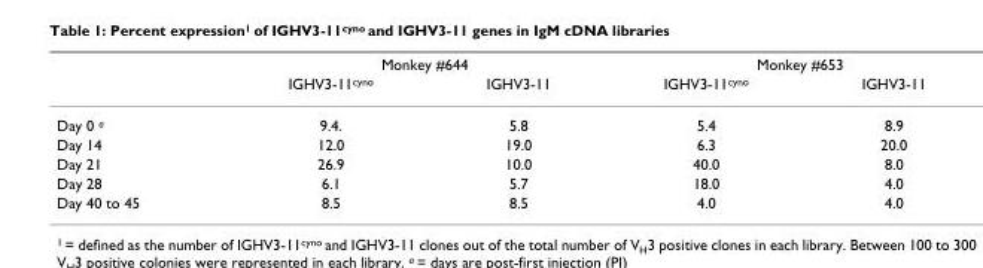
<table><thead><tr><td rowspan="2"></td><td colspan="2">Monkey #644</td><td colspan="2">Monkey #653</td></tr><tr><td>IGHV3-11<sup>cyno</sup></td><td>IGHV3-11</td><td>IGHV3-11<sup>cyno</sup></td><td>IGHV3-11</td></tr></thead><tbody><tr><td>Day 0 <sup>a</sup></td><td>9.4.</td><td>5.8</td><td>5.4</td><td>8.9</td></tr><tr><td>Day 14</td><td>12.0</td><td>19.0</td><td>6.3</td><td>20.0</td></tr><tr><td>Day 21</td><td>26.9</td><td>10.0</td><td>40.0</td><td>8.0</td></tr><tr><td>Day 28</td><td>6.1</td><td>5.7</td><td>18.0</td><td>4.0</td></tr><tr><td>Day 40 to 45</td><td>8.5</td><td>8.5</td><td>4.0</td><td>4.0</td></tr></tbody></table>